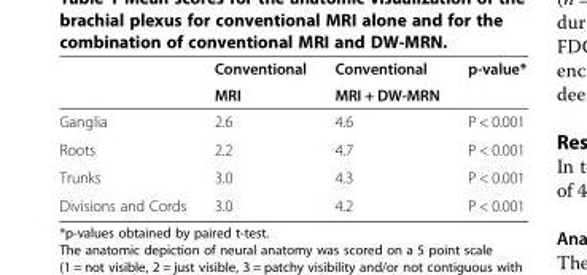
<table><thead><tr><td rowspan="2"></td><td rowspan="2">Conventional MRI</td><td rowspan="2">Conventional MRI + DW-MRN</td><td rowspan="2">p-value*</td></tr><tr></tr></thead><tbody><tr><td>Ganglia</td><td>2.6</td><td>4.6</td><td>P &lt; 0.001</td></tr><tr><td>Roots</td><td>2.2</td><td>4.7</td><td>P &lt; 0.001</td></tr><tr><td>Trunks</td><td>3.0</td><td>4.3</td><td>P &lt; 0.001</td></tr><tr><td>Divisions and Cords</td><td>3.0</td><td>4.2</td><td>P &lt; 0.001</td></tr></tbody></table>